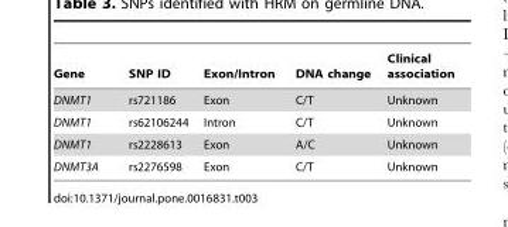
<table><thead><tr><td>Gene</td><td>SNP ID</td><td>Exon/Intron</td><td>DNA change</td><td>Clinical association</td></tr></thead><tbody><tr><td>DNMT1</td><td>rs721186</td><td>Exon</td><td>C/T</td><td>Unknown</td></tr><tr><td>DNMT1</td><td>rs62106244</td><td>Intron</td><td>C/T</td><td>Unknown</td></tr><tr><td>DNMT1</td><td>rs2228613</td><td>Exon</td><td>A/C</td><td>Unknown</td></tr><tr><td>DNMT3A</td><td>rs2276598</td><td>Exon</td><td>C/T</td><td>Unknown</td></tr></tbody></table>